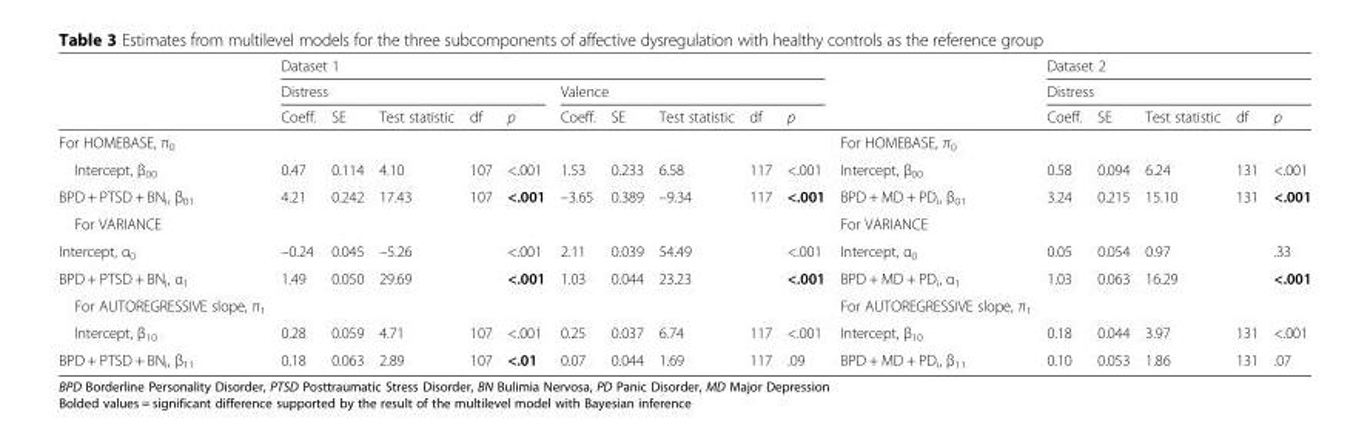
<table><thead><tr><td rowspan="3"></td><td colspan="10">Dataset 1</td><td rowspan="3"></td><td rowspan="2" colspan="5">Dataset 2 Distress</td></tr><tr><td colspan="5">Distress</td><td colspan="5">Valence</td></tr><tr><td>Coeff.</td><td>SE</td><td>Test statistic</td><td>df</td><td>p</td><td>Coeff.</td><td>SE</td><td>Test statistic</td><td>df</td><td>p</td><td>Coeff.</td><td>SE</td><td>Test statistic</td><td>df</td><td>p</td></tr></thead><tbody><tr><td>For HOMEBASE, π<sub>0</sub></td><td></td><td></td><td></td><td></td><td></td><td></td><td></td><td></td><td></td><td></td><td>For HOMEBASE, π<sub>0</sub></td><td></td><td></td><td></td><td></td><td></td></tr><tr><td>Intercept, β<sub>00</sub></td><td>0.47</td><td>0.114</td><td>4.10</td><td>107</td><td>&lt;.001</td><td>1.53</td><td>0.233</td><td>6.58</td><td>117</td><td>&lt;.001</td><td>Intercept, β<sub>00</sub></td><td>0.58</td><td>0.094</td><td>6.24</td><td>131</td><td>&lt;.001</td></tr><tr><td>BPD + PTSD + BN<sub>i</sub>, β<sub>01</sub></td><td>4.21</td><td>0.242</td><td>17.43</td><td>107</td><td>&lt;.001</td><td>–3.65</td><td>0.389</td><td>–9.34</td><td>117</td><td>&lt;.001</td><td>BPD + MD + PD<sub>i</sub>, β<sub>01</sub></td><td>3.24</td><td>0.215</td><td>15.10</td><td>131</td><td>&lt;.001</td></tr><tr><td>For VARIANCE</td><td></td><td></td><td></td><td></td><td></td><td></td><td></td><td></td><td></td><td></td><td>For VARIANCE</td><td></td><td></td><td></td><td></td><td></td></tr><tr><td>Intercept, α<sub>0</sub></td><td>–0.24</td><td>0.045</td><td>–5.26</td><td></td><td>&lt;.001</td><td>2.11</td><td>0.039</td><td>54.49</td><td></td><td>&lt;.001</td><td>Intercept, α<sub>0</sub></td><td>0.05</td><td>0.054</td><td>0.97</td><td></td><td>.33</td></tr><tr><td>BPD + PTSD + BN<sub>i</sub>, α<sub>1</sub></td><td>1.49</td><td>0.050</td><td>29.69</td><td></td><td>&lt;.001</td><td>1.03</td><td>0.044</td><td>23.23</td><td></td><td>&lt;.001</td><td>BPD + MD + PD<sub>i</sub>, α<sub>1</sub></td><td>1.03</td><td>0.063</td><td>16.29</td><td></td><td>&lt;.001</td></tr><tr><td>For AUTOREGRESSIVE slope, π<sub>1</sub></td><td></td><td></td><td></td><td></td><td></td><td></td><td></td><td></td><td></td><td></td><td>For AUTOREGRESSIVE slope, π<sub>1</sub></td><td></td><td></td><td></td><td></td><td></td></tr><tr><td>Intercept, β<sub>10</sub></td><td>0.28</td><td>0.059</td><td>4.71</td><td>107</td><td>&lt;.001</td><td>0.25</td><td>0.037</td><td>6.74</td><td>117</td><td>&lt;.001</td><td>Intercept, β<sub>10</sub></td><td>0.18</td><td>0.044</td><td>3.97</td><td>131</td><td>&lt;.001</td></tr><tr><td>BPD + PTSD + BN<sub>i</sub>, β<sub>11</sub></td><td>0.18</td><td>0.063</td><td>2.89</td><td>107</td><td>&lt;.01</td><td>0.07</td><td>0.044</td><td>1.69</td><td>117</td><td>.09</td><td>BPD + MD + PD<sub>i</sub>, β<sub>11</sub></td><td>0.10</td><td>0.053</td><td>1.86</td><td>131</td><td>.07</td></tr></tbody></table>